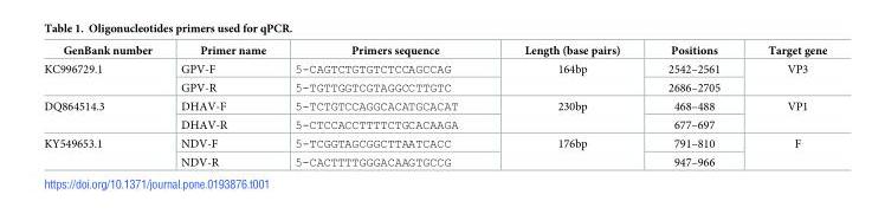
<table><thead><tr><td>GenBank number</td><td>Primer name</td><td>Primers sequence</td><td>Length (base pairs)</td><td>Positions</td><td>Target gene</td></tr></thead><tbody><tr><td rowspan="2">KC996729.1</td><td>GPV-F</td><td>5-CAGTCTGTGTCTCCAGCCAG</td><td rowspan="2">164bp</td><td>2542–2561</td><td rowspan="2">VP3</td></tr><tr><td>GPV-R</td><td>5-TGTTGGTCGTAGGCCTTGTC</td><td>2686–2705</td></tr><tr><td rowspan="2">DQ864514.3</td><td>DHAV-F</td><td>5-TCTGTCCAGGCACATGCACAT</td><td rowspan="2">230bp</td><td>468–488</td><td rowspan="2">VP1</td></tr><tr><td>DHAV-R</td><td>5-CTCCACCTTTTCTGCACAAGA</td><td>677–697</td></tr><tr><td rowspan="2">KY549653.1</td><td>NDV-F</td><td>5-TCGGTAGCGGCTTAATCACC</td><td rowspan="2">176bp</td><td>791–810</td><td rowspan="2">F</td></tr><tr><td>NDV-R</td><td>5-CACTTTTGGGACAAGTGCCG</td><td>947–966</td></tr></tbody></table>